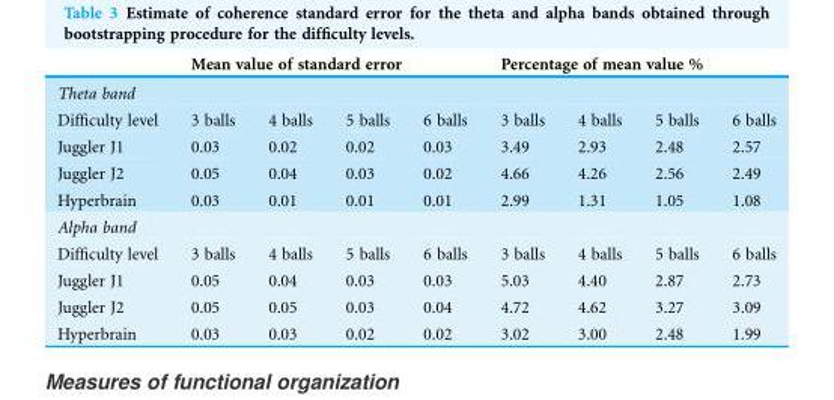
<table><thead><tr><td></td><td colspan="4">Mean value of standard error</td><td colspan="4">Percentage of mean value %</td></tr><tr><td colspan="9">Theta band</td></tr><tr><td>Difficulty level</td><td>3 balls</td><td>4 balls</td><td>5 balls</td><td>6 balls</td><td>3 balls</td><td>4 balls</td><td>5 balls</td><td>6 balls</td></tr></thead><tbody><tr><td>Juggler J1</td><td>0.03</td><td>0.02</td><td>0.02</td><td>0.03</td><td>3.49</td><td>2.93</td><td>2.48</td><td>2.57</td></tr><tr><td>Juggler J2</td><td>0.05</td><td>0.04</td><td>0.03</td><td>0.02</td><td>4.66</td><td>4.26</td><td>2.56</td><td>2.49</td></tr><tr><td>Hyperbrain</td><td>0.03</td><td>0.01</td><td>0.01</td><td>0.01</td><td>2.99</td><td>1.31</td><td>1.05</td><td>1.08</td></tr><tr><td colspan="9">Alpha band</td></tr><tr><td>Difficulty level</td><td>3 balls</td><td>4 balls</td><td>5 balls</td><td>6 balls</td><td>3 balls</td><td>4 balls</td><td>5 balls</td><td>6 balls</td></tr><tr><td>Juggler J1</td><td>0.05</td><td>0.04</td><td>0.03</td><td>0.03</td><td>5.03</td><td>4.40</td><td>2.87</td><td>2.73</td></tr><tr><td>Juggler J2</td><td>0.05</td><td>0.05</td><td>0.03</td><td>0.04</td><td>4.72</td><td>4.62</td><td>3.27</td><td>3.09</td></tr><tr><td>Hyperbrain</td><td>0.03</td><td>0.03</td><td>0.02</td><td>0.02</td><td>3.02</td><td>3.00</td><td>2.48</td><td>1.99</td></tr></tbody></table>